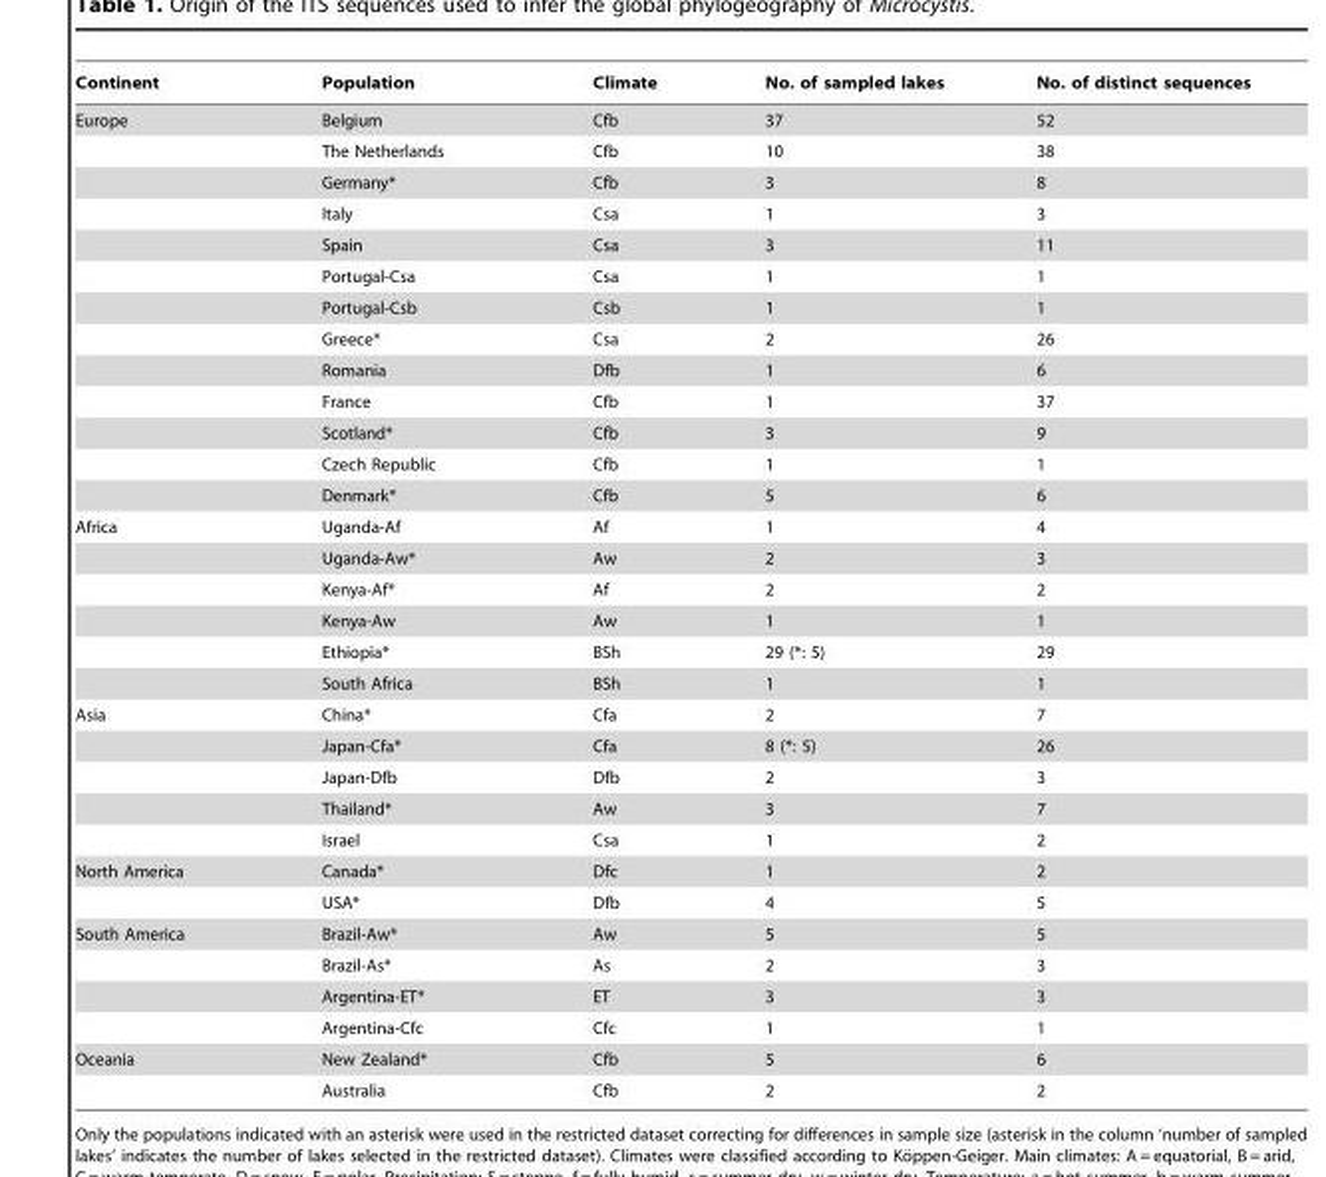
<table><thead><tr><td>Continent</td><td>Population</td><td>Climate</td><td>No. of sampled lakes</td><td>No. of distinct sequences</td></tr></thead><tbody><tr><td rowspan="13">Europe</td><td>Belgium</td><td>Cfb</td><td>37</td><td>52</td></tr><tr><td>The Netherlands</td><td>Cfb</td><td>10</td><td>38</td></tr><tr><td>Germany*</td><td>Cfb</td><td>3</td><td>8</td></tr><tr><td>Italy</td><td>Csa</td><td>1</td><td>3</td></tr><tr><td>Spain</td><td>Csa</td><td>3</td><td>11</td></tr><tr><td>Portugal-Csa</td><td>Csa</td><td>1</td><td>1</td></tr><tr><td>Portugal-Csb</td><td>Csb</td><td>1</td><td>1</td></tr><tr><td>Greece*</td><td>Csa</td><td>2</td><td>26</td></tr><tr><td>Romania</td><td>Dfb</td><td>1</td><td>6</td></tr><tr><td>France</td><td>Cfb</td><td>1</td><td>37</td></tr><tr><td>Scotland*</td><td>Cfb</td><td>3</td><td>9</td></tr><tr><td>Czech Republic</td><td>Cfb</td><td>1</td><td>1</td></tr><tr><td>Denmark*</td><td>Cfb</td><td>5</td><td>6</td></tr><tr><td rowspan="6">Africa</td><td>Uganda-Af</td><td>Af</td><td>1</td><td>4</td></tr><tr><td>Uganda-Aw*</td><td>Aw</td><td>2</td><td>3</td></tr><tr><td>Kenya-Af*</td><td>Af</td><td>2</td><td>2</td></tr><tr><td>Kenya-Aw</td><td>Aw</td><td>1</td><td>1</td></tr><tr><td>Ethiopia*</td><td>BSh</td><td>29 (*: 5)</td><td>29</td></tr><tr><td>South Africa</td><td>BSh</td><td>1</td><td>1</td></tr><tr><td rowspan="5">Asia</td><td>China*</td><td>Cfa</td><td>2</td><td>7</td></tr><tr><td>Japan-Cfa*</td><td>Cfa</td><td>8 (*: 5)</td><td>26</td></tr><tr><td>Japan-Dfb</td><td>Dfb</td><td>2</td><td>3</td></tr><tr><td>Thailand*</td><td>Aw</td><td>3</td><td>7</td></tr><tr><td>Israel</td><td>Csa</td><td>1</td><td>2</td></tr><tr><td rowspan="2">North America</td><td>Canada*</td><td>Dfc</td><td>1</td><td>2</td></tr><tr><td>USA*</td><td>Dfb</td><td>4</td><td>5</td></tr><tr><td rowspan="4">South America</td><td>Brazil-Aw*</td><td>Aw</td><td>5</td><td>5</td></tr><tr><td>Brazil-As*</td><td>As</td><td>2</td><td>3</td></tr><tr><td>Argentina-ET*</td><td>ET</td><td>3</td><td>3</td></tr><tr><td>Argentina-Cfc</td><td>Cfc</td><td>1</td><td>1</td></tr><tr><td rowspan="2">Oceania</td><td>New Zealand*</td><td>Cfb</td><td>5</td><td>6</td></tr><tr><td>Australia</td><td>Cfb</td><td>2</td><td>2</td></tr></tbody></table>